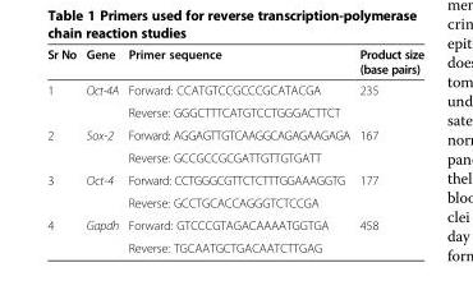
<table><thead><tr><td>Sr No</td><td>Gene</td><td>Primer sequence</td><td>Product size (base pairs)</td></tr></thead><tbody><tr><td rowspan="2">1</td><td>Oct-4A</td><td>Forward: CCATGTCCGCCCGCATACGA</td><td>235</td></tr><tr><td></td><td>Reverse: GGGCTTTCATGTCCTGGGACTTCT</td><td></td></tr><tr><td rowspan="2">2</td><td>Sox-2</td><td>Forward: AGGAGTTGTCAAGGCAGAGAAGAGA</td><td>167</td></tr><tr><td></td><td>Reverse: GCCGCCGCGATTGTTGTGATT</td><td></td></tr><tr><td rowspan="2">3</td><td>Oct-4</td><td>Forward: CCTGGGCGTTCTCTTTGGAAAGGTG</td><td>177</td></tr><tr><td></td><td>Reverse: GCCTGCACCAGGGTCTCCGA</td><td></td></tr><tr><td rowspan="2">4</td><td>Gapdh</td><td>Forward: GTCCCGTAGACAAAATGGTGA</td><td>458</td></tr><tr><td></td><td>Reverse: TGCAATGCTGACAATCTTGAG</td><td></td></tr></tbody></table>